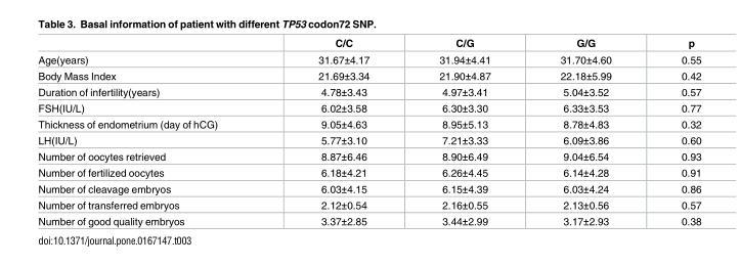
<table><thead><tr><td></td><td>C/C</td><td>C/G</td><td>G/G</td><td>p</td></tr></thead><tbody><tr><td>Age(years)</td><td>31.67±4.17</td><td>31.94±4.41</td><td>31.70±4.60</td><td>0.55</td></tr><tr><td>Body Mass Index</td><td>21.69±3.34</td><td>21.90±4.87</td><td>22.18±5.99</td><td>0.42</td></tr><tr><td>Duration of infertility(years)</td><td>4.78±3.43</td><td>4.97±3.41</td><td>5.04±3.52</td><td>0.57</td></tr><tr><td>FSH(IU/L)</td><td>6.02±3.58</td><td>6.30±3.30</td><td>6.33±3.53</td><td>0.77</td></tr><tr><td>Thickness of endometrium (day of hCG)</td><td>9.05±4.63</td><td>8.95±5.13</td><td>8.78±4.83</td><td>0.32</td></tr><tr><td>LH(IU/L)</td><td>5.77±3.10</td><td>7.21±3.33</td><td>6.09±3.86</td><td>0.60</td></tr><tr><td>Number of oocytes retrieved</td><td>8.87±6.46</td><td>8.90±6.49</td><td>9.04±6.54</td><td>0.93</td></tr><tr><td>Number of fertilized oocytes</td><td>6.18±4.21</td><td>6.26±4.45</td><td>6.14±4.28</td><td>0.91</td></tr><tr><td>Number of cleavage embryos</td><td>6.03±4.15</td><td>6.15±4.39</td><td>6.03±4.24</td><td>0.86</td></tr><tr><td>Number of transferred embryos</td><td>2.12±0.54</td><td>2.16±0.55</td><td>2.13±0.56</td><td>0.57</td></tr><tr><td>Number of good quality embryos</td><td>3.37±2.85</td><td>3.44±2.99</td><td>3.17±2.93</td><td>0.38</td></tr></tbody></table>